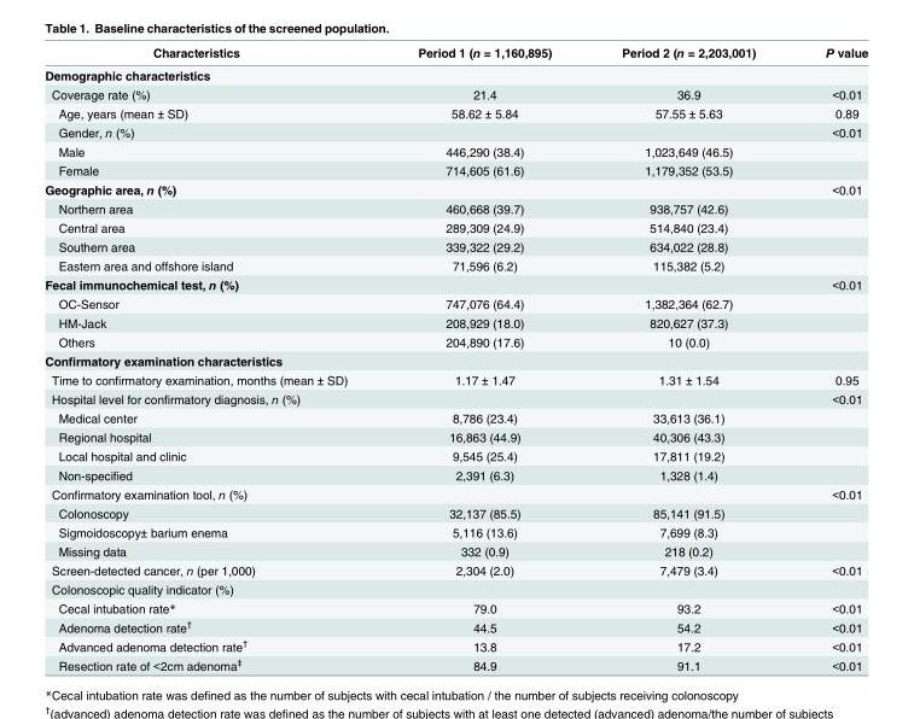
<table><thead><tr><td>Characteristics</td><td>Period 1 (n = 1,160,895)</td><td>Period 2 (n = 2,203,001)</td><td>P value</td></tr></thead><tbody><tr><td colspan="4">Demographic characteristics</td></tr><tr><td>Coverage rate (%)</td><td>21.4</td><td>36.9</td><td>&lt;0.01</td></tr><tr><td>Age, years (mean ± SD)</td><td>58.62 ± 5.84</td><td>57.55 ± 5.63</td><td>0.89</td></tr><tr><td>Gender, n (%)</td><td></td><td></td><td>&lt;0.01</td></tr><tr><td>Male</td><td>446,290 (38.4)</td><td>1,023,649 (46.5)</td><td></td></tr><tr><td>Female</td><td>714,605 (61.6)</td><td>1,179,352 (53.5)</td><td></td></tr><tr><td>Geographic area, n (%)</td><td></td><td></td><td>&lt;0.01</td></tr><tr><td>Northern area</td><td>460,668 (39.7)</td><td>938,757 (42.6)</td><td></td></tr><tr><td>Central area</td><td>289,309 (24.9)</td><td>514,840 (23.4)</td><td></td></tr><tr><td>Southern area</td><td>339,322 (29.2)</td><td>634,022 (28.8)</td><td></td></tr><tr><td>Eastern area and offshore island</td><td>71,596 (6.2)</td><td>115,382 (5.2)</td><td></td></tr><tr><td>Fecal immunochemical test, n (%)</td><td></td><td></td><td>&lt;0.01</td></tr><tr><td>OC-Sensor</td><td>747,076 (64.4)</td><td>1,382,364 (62.7)</td><td></td></tr><tr><td>HM-Jack</td><td>208,929 (18.0)</td><td>820,627 (37.3)</td><td></td></tr><tr><td>Others</td><td>204,890 (17.6)</td><td>10 (0.0)</td><td></td></tr><tr><td colspan="4">Confirmatory examination characteristics</td></tr><tr><td>Time to confirmatory examination, months (mean ± SD)</td><td>1.17 ± 1.47</td><td>1.31 ± 1.54</td><td>0.95</td></tr><tr><td>Hospital level for confirmatory diagnosis, n (%)</td><td></td><td></td><td>&lt;0.01</td></tr><tr><td>Medical center</td><td>8,786 (23.4)</td><td>33,613 (36.1)</td><td></td></tr><tr><td>Regional hospital</td><td>16,863 (44.9)</td><td>40,306 (43.3)</td><td></td></tr><tr><td>Local hospital and clinic</td><td>9,545 (25.4)</td><td>17,811 (19.2)</td><td></td></tr><tr><td>Non-specified</td><td>2,391 (6.3)</td><td>1,328 (1.4)</td><td></td></tr><tr><td>Confirmatory examination tool, n (%)</td><td></td><td></td><td>&lt;0.01</td></tr><tr><td>Colonoscopy</td><td>32,137 (85.5)</td><td>85,141 (91.5)</td><td></td></tr><tr><td>Sigmoidoscopy± barium enema</td><td>5,116 (13.6)</td><td>7,699 (8.3)</td><td></td></tr><tr><td>Missing data</td><td>332 (0.9)</td><td>218 (0.2)</td><td></td></tr><tr><td>Screen-detected cancer, n (per 1,000)</td><td>2,304 (2.0)</td><td>7,479 (3.4)</td><td>&lt;0.01</td></tr><tr><td colspan="4">Colonoscopic quality indicator (%)</td></tr><tr><td>Cecal intubation rate*</td><td>79.0</td><td>93.2</td><td>&lt;0.01</td></tr><tr><td>Adenoma detection rate<sup>†</sup></td><td>44.5</td><td>54.2</td><td>&lt;0.01</td></tr><tr><td>Advanced adenoma detection rate<sup>†</sup></td><td>13.8</td><td>17.2</td><td>&lt;0.01</td></tr><tr><td>Resection rate of &lt;2cm adenoma<sup>‡</sup></td><td>84.9</td><td>91.1</td><td>&lt;0.01</td></tr></tbody></table>